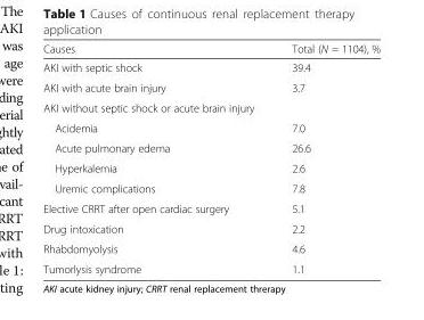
<table><thead><tr><td>Causes</td><td>Total (N = 1104), %</td></tr></thead><tbody><tr><td>AKI with septic shock</td><td>39.4</td></tr><tr><td>AKI with acute brain injury</td><td>3.7</td></tr><tr><td colspan="2">AKI without septic shock or acute brain injury</td></tr><tr><td>Acidemia</td><td>7.0</td></tr><tr><td>Acute pulmonary edema</td><td>26.6</td></tr><tr><td>Hyperkalemia</td><td>2.6</td></tr><tr><td>Uremic complications</td><td>7.8</td></tr><tr><td>Elective CRRT after open cardiac surgery</td><td>5.1</td></tr><tr><td>Drug intoxication</td><td>2.2</td></tr><tr><td>Rhabdomyolysis</td><td>4.6</td></tr><tr><td>Tumorlysis syndrome</td><td>1.1</td></tr></tbody></table>